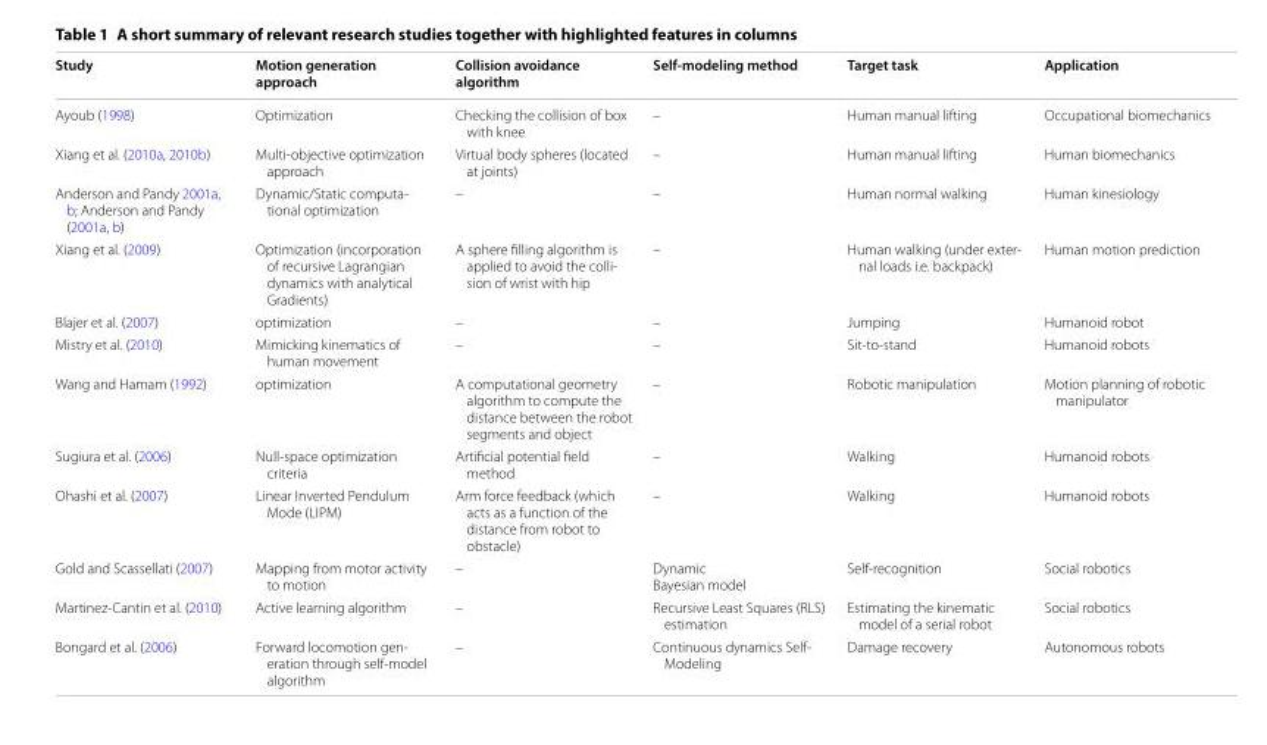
<table><thead><tr><td>Study</td><td>Motion generation approach</td><td>Collision avoidance algorithm</td><td>Self-modeling method</td><td>Target task</td><td>Application</td></tr></thead><tbody><tr><td>Ayoub (1998)</td><td>Optimization</td><td>Checking the collision of box with knee</td><td>–</td><td>Human manual lifting</td><td>Occupational biomechanics</td></tr><tr><td>Xiang et al. (2010a, 2010b)</td><td>Multi-objective optimization approach</td><td>Virtual body spheres (located at joints)</td><td>–</td><td>Human manual lifting</td><td>Human biomechanics</td></tr><tr><td>Anderson and Pandy 2001a, b; Anderson and Pandy (2001a, b)</td><td>Dynamic/Static computa- tional optimization</td><td>–</td><td>–</td><td>Human normal walking</td><td>Human kinesiology</td></tr><tr><td>Xiang et al. (2009)</td><td>Optimization (incorporation of recursive Lagrangian dynamics with analytical Gradients)</td><td>A sphere filling algorithm is applied to avoid the colli- sion of wrist with hip</td><td>–</td><td>Human walking (under exter- nal loads i.e. backpack)</td><td>Human motion prediction</td></tr><tr><td>Blajer et al. (2007)</td><td>optimization</td><td>–</td><td>–</td><td>Jumping</td><td>Humanoid robot</td></tr><tr><td>Mistry et al. (2010)</td><td>Mimicking kinematics of human movement</td><td>–</td><td>–</td><td>Sit-to-stand</td><td>Humanoid robots</td></tr><tr><td>Wang and Hamam (1992)</td><td>optimization</td><td>A computational geometry algorithm to compute the distance between the robot segments and object</td><td>–</td><td>Robotic manipulation</td><td>Motion planning of robotic manipulator</td></tr><tr><td>Sugiura et al. (2006)</td><td>Null-space optimization criteria</td><td>Artificial potential field method</td><td>–</td><td>Walking</td><td>Humanoid robots</td></tr><tr><td>Ohashi et al. (2007)</td><td>Linear Inverted Pendulum Mode (LIPM)</td><td>Arm force feedback (which acts as a function of the distance from robot to obstacle)</td><td>–</td><td>Walking</td><td>Humanoid robots</td></tr><tr><td>Gold and Scassellati (2007)</td><td>Mapping from motor activity to motion</td><td>–</td><td>Dynamic Bayesian model</td><td>Self-recognition</td><td>Social robotics</td></tr><tr><td>Martinez-Cantin et al. (2010)</td><td>Active learning algorithm</td><td>–</td><td>Recursive Least Squares (RLS) estimation</td><td>Estimating the kinematic model of a serial robot</td><td>Social robotics</td></tr><tr><td>Bongard et al. (2006)</td><td>Forward locomotion gen- eration through self-model algorithm</td><td>–</td><td>Continuous dynamics Self- Modeling</td><td>Damage recovery</td><td>Autonomous robots</td></tr></tbody></table>